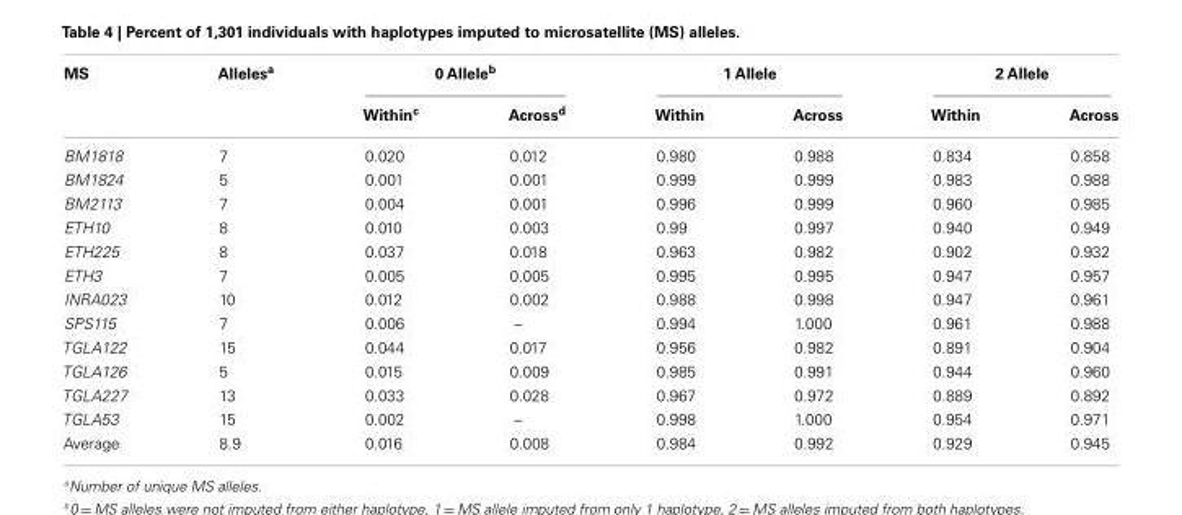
<table><thead><tr><td rowspan="2">MS</td><td rowspan="2">Alleles<sup>a</sup></td><td colspan="2">0 Allele<sup>b</sup></td><td colspan="2">1 Allele</td><td colspan="2">2 Allele</td></tr><tr><td>Within<sup>c</sup></td><td>Across<sup>d</sup></td><td>Within</td><td>Across</td><td>Within</td><td>Across</td></tr></thead><tbody><tr><td>BM1818</td><td>7</td><td>0.020</td><td>0.012</td><td>0.980</td><td>0.988</td><td>0.834</td><td>0.858</td></tr><tr><td>BM1824</td><td>5</td><td>0.001</td><td>0.001</td><td>0.999</td><td>0.999</td><td>0.983</td><td>0.988</td></tr><tr><td>BM2113</td><td>7</td><td>0.004</td><td>0.001</td><td>0.996</td><td>0.999</td><td>0.960</td><td>0.985</td></tr><tr><td>ETH10</td><td>8</td><td>0.010</td><td>0.003</td><td>0.99</td><td>0.997</td><td>0.940</td><td>0.949</td></tr><tr><td>ETH225</td><td>8</td><td>0.037</td><td>0.018</td><td>0.963</td><td>0.982</td><td>0.902</td><td>0.932</td></tr><tr><td>ETH3</td><td>7</td><td>0.005</td><td>0.005</td><td>0.995</td><td>0.995</td><td>0.947</td><td>0.957</td></tr><tr><td>INRA023</td><td>10</td><td>0.012</td><td>0.002</td><td>0.988</td><td>0.998</td><td>0.947</td><td>0.961</td></tr><tr><td>SPS115</td><td>7</td><td>0.006</td><td>–</td><td>0.994</td><td>1.000</td><td>0.961</td><td>0.988</td></tr><tr><td>TGLA122</td><td>15</td><td>0.044</td><td>0.017</td><td>0.956</td><td>0.982</td><td>0.891</td><td>0.904</td></tr><tr><td>TGLA126</td><td>5</td><td>0.015</td><td>0.009</td><td>0.985</td><td>0.991</td><td>0.944</td><td>0.960</td></tr><tr><td>TGLA227</td><td>13</td><td>0.033</td><td>0.028</td><td>0.967</td><td>0.972</td><td>0.889</td><td>0.892</td></tr><tr><td>TGLA53</td><td>15</td><td>0.002</td><td>–</td><td>0.998</td><td>1.000</td><td>0.954</td><td>0.971</td></tr><tr><td>Average</td><td>8.9</td><td>0.016</td><td>0.008</td><td>0.984</td><td>0.992</td><td>0.929</td><td>0.945</td></tr></tbody></table>